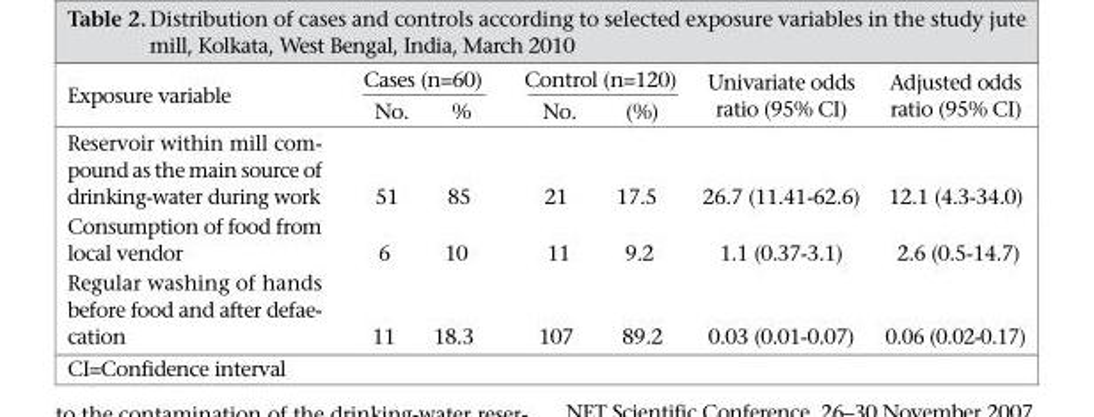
<table><thead><tr><td rowspan="2">Exposure variable</td><td colspan="2">Cases (n=60)</td><td colspan="2">Control (n=120)</td><td rowspan="2">Univariate odds ratio (95% CI)</td><td rowspan="2">Adjusted odds ratio (95% CI)</td></tr><tr><td>No.</td><td>%</td><td>No.</td><td>(%)</td></tr></thead><tbody><tr><td>Reservoir within mill com- pound as the main source of drinking-water during work</td><td>51</td><td>85</td><td>21</td><td>17.5</td><td>26.7 (11.41-62.6)</td><td>12.1 (4.3-34.0)</td></tr><tr><td>Consumption of food from local vendor</td><td>6</td><td>10</td><td>11</td><td>9.2</td><td>1.1 (0.37-3.1)</td><td>2.6 (0.5-14.7)</td></tr><tr><td>Regular washing of hands before food and after defae- cation</td><td>11</td><td>18.3</td><td>107</td><td>89.2</td><td>0.03 (0.01-0.07)</td><td>0.06 (0.02-0.17)</td></tr></tbody></table>